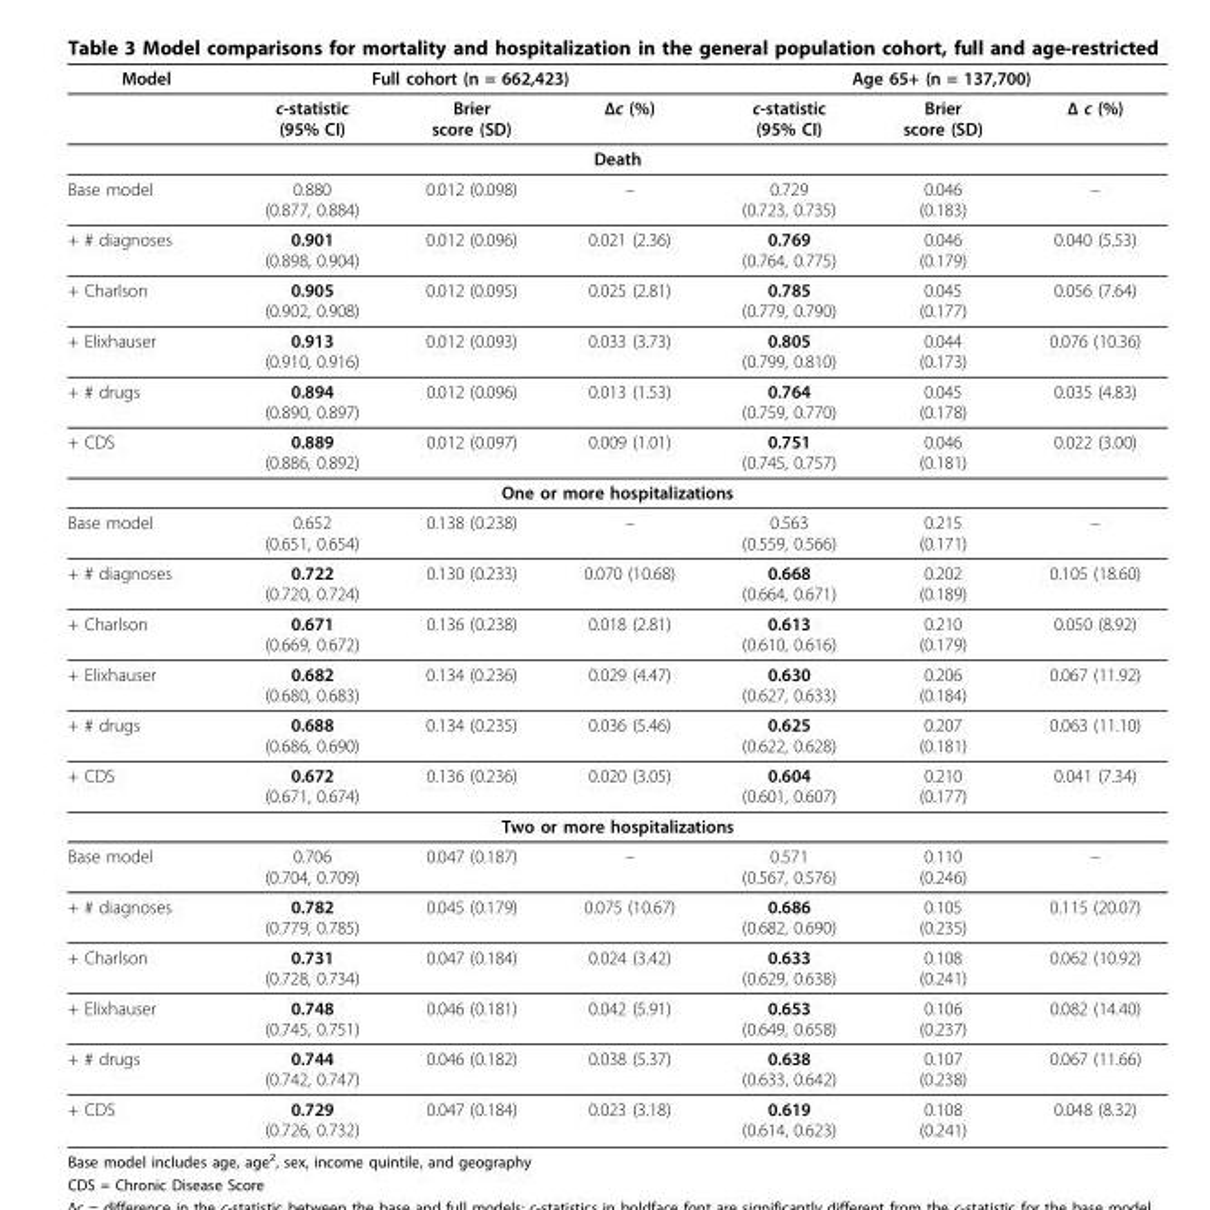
<table><thead><tr><td rowspan="2">Model</td><td colspan="3">Full cohort (n = 662,423)</td><td colspan="3">Age 65+ (n = 137,700)</td></tr><tr><td>c-statistic (95% CI)</td><td>Brier score (SD)</td><td>Δc (%)</td><td>c-statistic (95% CI)</td><td>Brier score (SD)</td><td>Δ c (%)</td></tr></thead><tbody><tr><td colspan="7">Death</td></tr><tr><td>Base model</td><td>0.880 (0.877, 0.884)</td><td>0.012 (0.098)</td><td>–</td><td>0.729 (0.723, 0.735)</td><td>0.046 (0.183)</td><td>–</td></tr><tr><td>+ # diagnoses</td><td>0.901 (0.898, 0.904)</td><td>0.012 (0.096)</td><td>0.021 (2.36)</td><td>0.769 (0.764, 0.775)</td><td>0.046 (0.179)</td><td>0.040 (5.53)</td></tr><tr><td>+ Charlson</td><td>0.905 (0.902, 0.908)</td><td>0.012 (0.095)</td><td>0.025 (2.81)</td><td>0.785 (0.779, 0.790)</td><td>0.045 (0.177)</td><td>0.056 (7.64)</td></tr><tr><td>+ Elixhauser</td><td>0.913 (0.910, 0.916)</td><td>0.012 (0.093)</td><td>0.033 (3.73)</td><td>0.805 (0.799, 0.810)</td><td>0.044 (0.173)</td><td>0.076 (10.36)</td></tr><tr><td>+ # drugs</td><td>0.894 (0.890, 0.897)</td><td>0.012 (0.096)</td><td>0.013 (1.53)</td><td>0.764 (0.759, 0.770)</td><td>0.045 (0.178)</td><td>0.035 (4.83)</td></tr><tr><td>+ CDS</td><td>0.889 (0.886, 0.892)</td><td>0.012 (0.097)</td><td>0.009 (1.01)</td><td>0.751 (0.745, 0.757)</td><td>0.046 (0.181)</td><td>0.022 (3.00)</td></tr><tr><td colspan="7">One or more hospitalizations</td></tr><tr><td>Base model</td><td>0.652 (0.651, 0.654)</td><td>0.138 (0.238)</td><td>–</td><td>0.563 (0.559, 0.566)</td><td>0.215 (0.171)</td><td>–</td></tr><tr><td>+ # diagnoses</td><td>0.722 (0.720, 0.724)</td><td>0.130 (0.233)</td><td>0.070 (10.68)</td><td>0.668 (0.664, 0.671)</td><td>0.202 (0.189)</td><td>0.105 (18.60)</td></tr><tr><td>+ Charlson</td><td>0.671 (0.669, 0.672)</td><td>0.136 (0.238)</td><td>0.018 (2.81)</td><td>0.613 (0.610, 0.616)</td><td>0.210 (0.179)</td><td>0.050 (8.92)</td></tr><tr><td>+ Elixhauser</td><td>0.682 (0.680, 0.683)</td><td>0.134 (0.236)</td><td>0.029 (4.47)</td><td>0.630 (0.627, 0.633)</td><td>0.206 (0.184)</td><td>0.067 (11.92)</td></tr><tr><td>+ # drugs</td><td>0.688 (0.686, 0.690)</td><td>0.134 (0.235)</td><td>0.036 (5.46)</td><td>0.625 (0.622, 0.628)</td><td>0.207 (0.181)</td><td>0.063 (11.10)</td></tr><tr><td>+ CDS</td><td>0.672 (0.671, 0.674)</td><td>0.136 (0.236)</td><td>0.020 (3.05)</td><td>0.604 (0.601, 0.607)</td><td>0.210 (0.177)</td><td>0.041 (7.34)</td></tr><tr><td colspan="7">Two or more hospitalizations</td></tr><tr><td>Base model</td><td>0.706 (0.704, 0.709)</td><td>0.047 (0.187)</td><td>–</td><td>0.571 (0.567, 0.576)</td><td>0.110 (0.246)</td><td>–</td></tr><tr><td>+ # diagnoses</td><td>0.782 (0.779, 0.785)</td><td>0.045 (0.179)</td><td>0.075 (10.67)</td><td>0.686 (0.682, 0.690)</td><td>0.105 (0.235)</td><td>0.115 (20.07)</td></tr><tr><td>+ Charlson</td><td>0.731 (0.728, 0.734)</td><td>0.047 (0.184)</td><td>0.024 (3.42)</td><td>0.633 (0.629, 0.638)</td><td>0.108 (0.241)</td><td>0.062 (10.92)</td></tr><tr><td>+ Elixhauser</td><td>0.748 (0.745, 0.751)</td><td>0.046 (0.181)</td><td>0.042 (5.91)</td><td>0.653 (0.649, 0.658)</td><td>0.106 (0.237)</td><td>0.082 (14.40)</td></tr><tr><td>+ # drugs</td><td>0.744 (0.742, 0.747)</td><td>0.046 (0.182)</td><td>0.038 (5.37)</td><td>0.638 (0.633, 0.642)</td><td>0.107 (0.238)</td><td>0.067 (11.66)</td></tr><tr><td>+ CDS</td><td>0.729 (0.726, 0.732)</td><td>0.047 (0.184)</td><td>0.023 (3.18)</td><td>0.619 (0.614, 0.623)</td><td>0.108 (0.241)</td><td>0.048 (8.32)</td></tr></tbody></table>